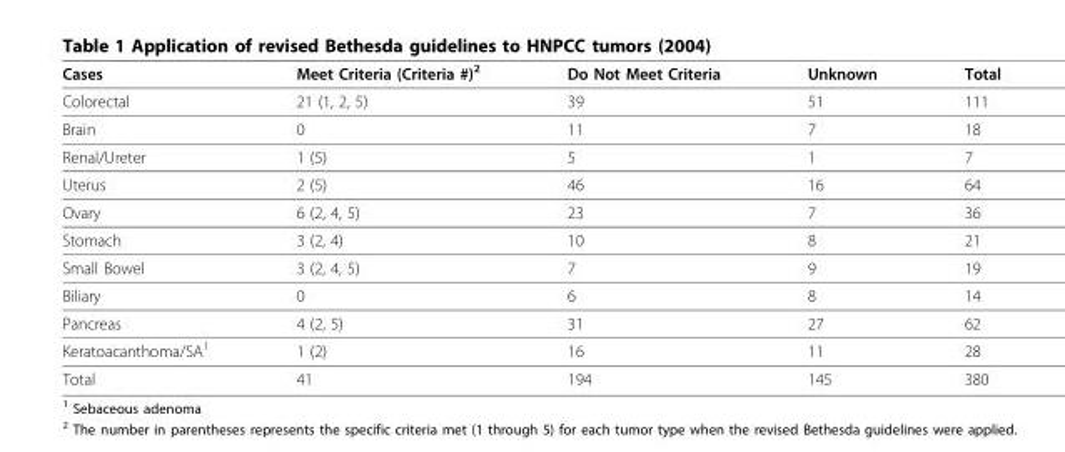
<table><thead><tr><td>Cases</td><td>Meet Criteria (Criteria #)<sup>2</sup></td><td>Do Not Meet Criteria</td><td>Unknown</td><td>Total</td></tr></thead><tbody><tr><td>Colorectal</td><td>21 (1, 2, 5)</td><td>39</td><td>51</td><td>111</td></tr><tr><td>Brain</td><td>0</td><td>11</td><td>7</td><td>18</td></tr><tr><td>Renal/Ureter</td><td>1 (5)</td><td>5</td><td>1</td><td>7</td></tr><tr><td>Uterus</td><td>2 (5)</td><td>46</td><td>16</td><td>64</td></tr><tr><td>Ovary</td><td>6 (2, 4, 5)</td><td>23</td><td>7</td><td>36</td></tr><tr><td>Stomach</td><td>3 (2, 4)</td><td>10</td><td>8</td><td>21</td></tr><tr><td>Small Bowel</td><td>3 (2, 4, 5)</td><td>7</td><td>9</td><td>19</td></tr><tr><td>Biliary</td><td>0</td><td>6</td><td>8</td><td>14</td></tr><tr><td>Pancreas</td><td>4 (2, 5)</td><td>31</td><td>27</td><td>62</td></tr><tr><td>Keratoacanthoma/SA<sup>1</sup></td><td>1 (2)</td><td>16</td><td>11</td><td>28</td></tr><tr><td>Total</td><td>41</td><td>194</td><td>145</td><td>380</td></tr></tbody></table>